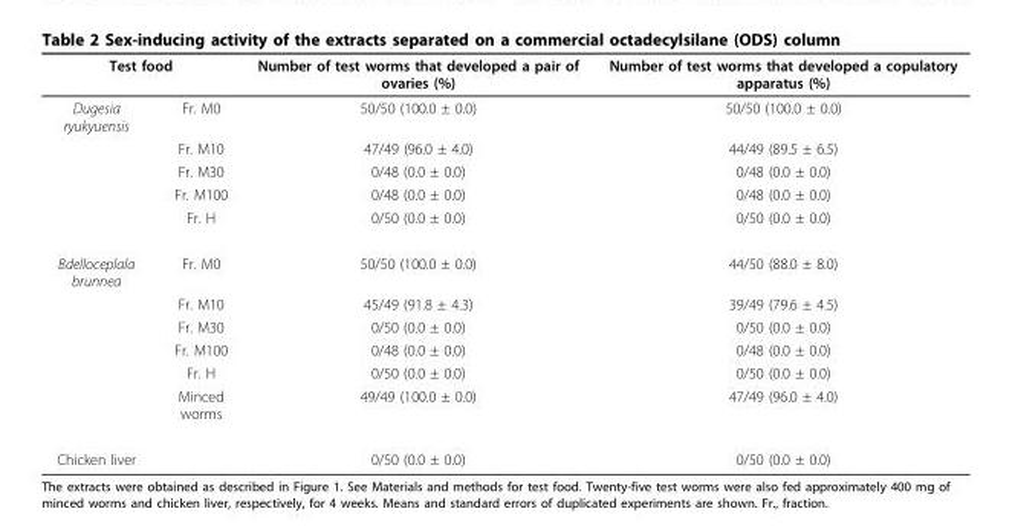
<table><thead><tr><td colspan="2">Test food</td><td rowspan="2">Number of test worms that developed a pair of ovaries (%) 50/50 (100.0 ± 0.0)</td><td rowspan="2">Number of test worms that developed a copulatory apparatus (%) 50/50 (100.0 ± 0.0)</td></tr><tr><td>Dugesia ryukyuensis</td><td>Fr. M0</td></tr></thead><tbody><tr><td></td><td>Fr. M10</td><td>47/49 (96.0 ± 4.0)</td><td>44/49 (89.5 ± 6.5)</td></tr><tr><td></td><td>Fr. M30</td><td>0/48 (0.0 ± 0.0)</td><td>0/48 (0.0 ± 0.0)</td></tr><tr><td></td><td>Fr. M100</td><td>0/48 (0.0 ± 0.0)</td><td>0/48 (0.0 ± 0.0)</td></tr><tr><td></td><td>Fr. H</td><td>0/50 (0.0 ± 0.0)</td><td>0/50 (0.0 ± 0.0)</td></tr><tr><td rowspan="6">Bdelloceplala brunnea</td><td>Fr. M0</td><td>50/50 (100.0 ± 0.0)</td><td>44/50 (88.0 ± 8.0)</td></tr><tr><td>Fr. M10</td><td>45/49 (91.8 ± 4.3)</td><td>39/49 (79.6 ± 4.5)</td></tr><tr><td>Fr. M30</td><td>0/50 (0.0 ± 0.0)</td><td>0/50 (0.0 ± 0.0)</td></tr><tr><td>Fr. M100</td><td>0/48 (0.0 ± 0.0)</td><td>0/48 (0.0 ± 0.0)</td></tr><tr><td>Fr. H</td><td>0/50 (0.0 ± 0.0)</td><td>0/50 (0.0 ± 0.0)</td></tr><tr><td>Minced worms</td><td>49/49 (100.0 ± 0.0)</td><td>47/49 (96.0 ± 4.0)</td></tr><tr><td>Chicken liver</td><td></td><td>0/50 (0.0 ± 0.0)</td><td>0/50 (0.0 ± 0.0)</td></tr></tbody></table>